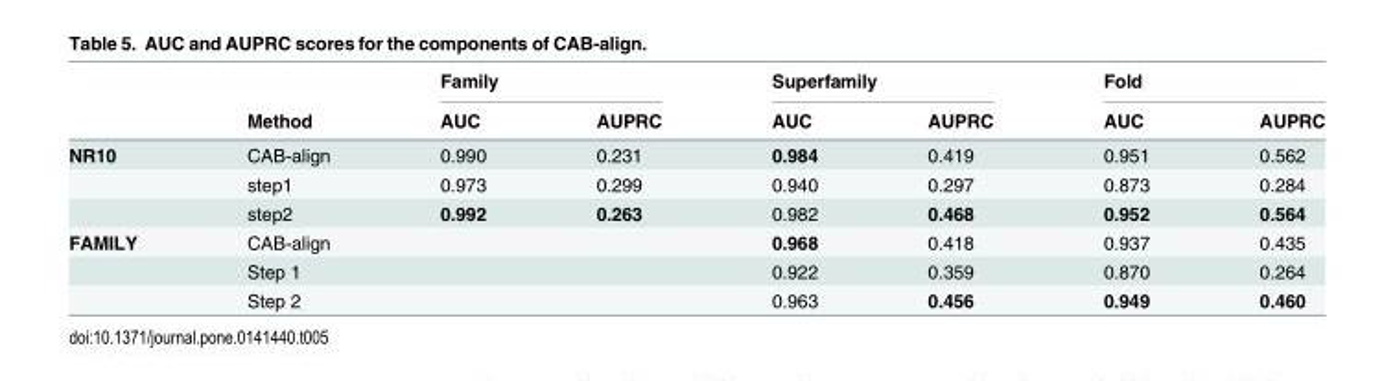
<table><thead><tr><td rowspan="2"></td><td rowspan="2">Method</td><td colspan="2">Family</td><td colspan="2">Superfamily</td><td colspan="2">Fold</td></tr><tr><td>AUC</td><td>AUPRC</td><td>AUC</td><td>AUPRC</td><td>AUC</td><td>AUPRC</td></tr></thead><tbody><tr><td rowspan="3">NR10</td><td>CAB-align</td><td>0.990</td><td>0.231</td><td>0.984</td><td>0.419</td><td>0.951</td><td>0.562</td></tr><tr><td>step1</td><td>0.973</td><td>0.299</td><td>0.940</td><td>0.297</td><td>0.873</td><td>0.284</td></tr><tr><td>step2</td><td>0.992</td><td>0.263</td><td>0.982</td><td>0.468</td><td>0.952</td><td>0.564</td></tr><tr><td rowspan="3">FAMILY</td><td>CAB-align</td><td></td><td></td><td>0.968</td><td>0.418</td><td>0.937</td><td>0.435</td></tr><tr><td>Step 1</td><td></td><td></td><td>0.922</td><td>0.359</td><td>0.870</td><td>0.264</td></tr><tr><td>Step 2</td><td></td><td></td><td>0.963</td><td>0.456</td><td>0.949</td><td>0.460</td></tr></tbody></table>